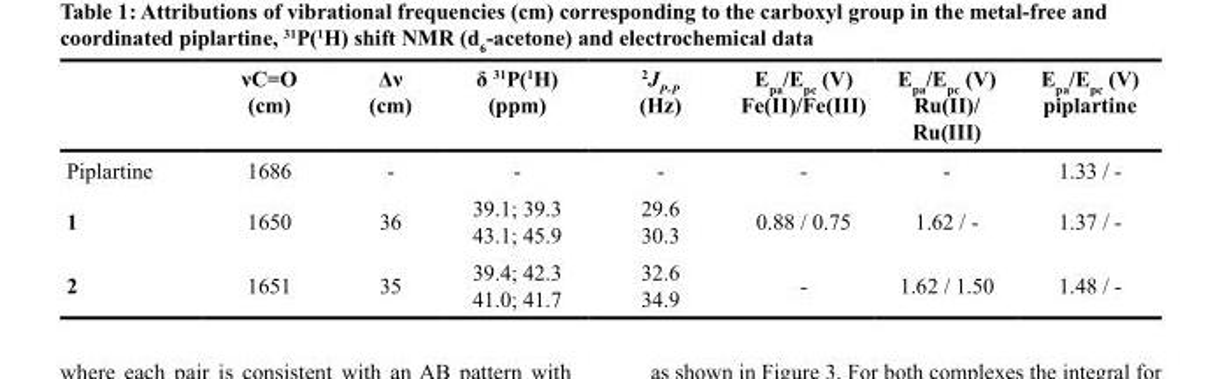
<table><thead><tr><td></td><td>νC=O (cm)</td><td>Δν (cm)</td><td>δ <sup>31</sup>P(<sup>1</sup>H) (ppm)</td><td><sup>2</sup>J<sub>P-P</sub> (Hz)</td><td>E<sub>pa</sub>/E<sub>pc</sub> (V) Fe(II)/Fe(III)</td><td>E<sub>pa</sub>/E<sub>pc</sub> (V) Ru(II)/ Ru(III)</td><td>E<sub>pa</sub>/E<sub>pc</sub> (V) piplartine</td></tr></thead><tbody><tr><td>Piplartine</td><td>1686</td><td>-</td><td>-</td><td>-</td><td>-</td><td>-</td><td>1.33 / -</td></tr><tr><td>1</td><td>1650</td><td>36</td><td>39.1; 39.3 43.1; 45.9</td><td>29.6 30.3</td><td>0.88 / 0.75</td><td>1.62 / -</td><td>1.37 / -</td></tr><tr><td>2</td><td>1651</td><td>35</td><td>39.4; 42.3 41.0; 41.7</td><td>32.6 34.9</td><td>-</td><td>1.62 / 1.50</td><td>1.48 / -</td></tr></tbody></table>